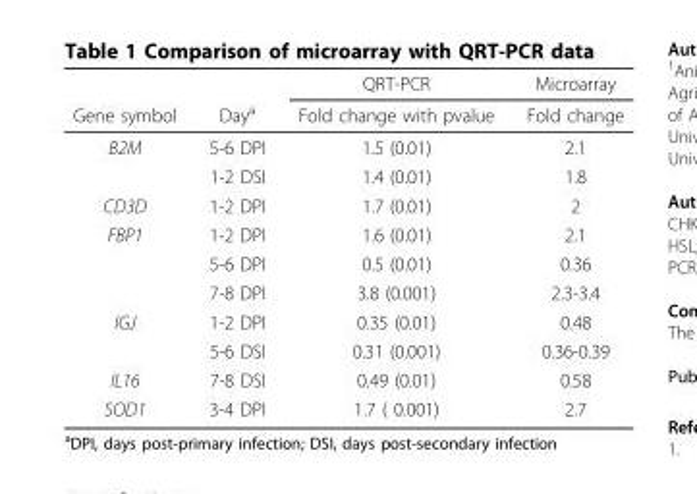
<table><thead><tr><td rowspan="2">Gene symbol</td><td rowspan="2">Day<sup>a</sup></td><td rowspan="2">QRT-PCR Fold change with pvalue</td><td rowspan="2">Microarray Fold change</td></tr><tr></tr></thead><tbody><tr><td rowspan="2">B2M</td><td>5-6 DPI</td><td>1.5 (0.01)</td><td>2.1</td></tr><tr><td>1-2 DSI</td><td>1.4 (0.01)</td><td>1.8</td></tr><tr><td>CD3D</td><td>1-2 DPI</td><td>1.7 (0.01)</td><td>2</td></tr><tr><td rowspan="3">FBP1</td><td>1-2 DPI</td><td>1.6 (0.01)</td><td>2.1</td></tr><tr><td>5-6 DPI</td><td>0.5 (0.01)</td><td>0.36</td></tr><tr><td>7-8 DPI</td><td>3.8 (0.001)</td><td>2.3-3.4</td></tr><tr><td rowspan="2">IGJ</td><td>1-2 DPI</td><td>0.35 (0.01)</td><td>0.48</td></tr><tr><td>5-6 DSI</td><td>0.31 (0.001)</td><td>0.36-0.39</td></tr><tr><td>IL16</td><td>7-8 DSI</td><td>0.49 (0.01)</td><td>0.58</td></tr><tr><td>SOD1</td><td>3-4 DPI</td><td>1.7 ( 0.001)</td><td>2.7</td></tr></tbody></table>